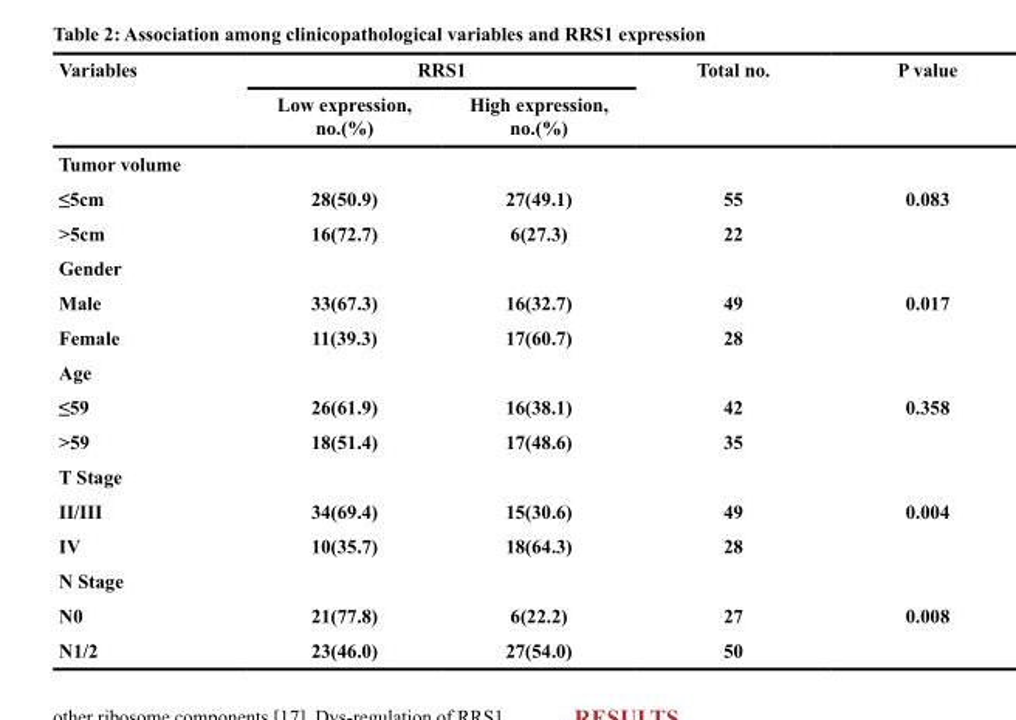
<table><thead><tr><td rowspan="2">Variables</td><td colspan="2">RRS1</td><td rowspan="2">Total no.</td><td rowspan="2">P value</td></tr><tr><td>Low expression, no.(%)</td><td>High expression, no.(%)</td></tr></thead><tbody><tr><td colspan="5">Tumor volume</td></tr><tr><td>≤5cm</td><td>28(50.9)</td><td>27(49.1)</td><td>55</td><td rowspan="2">0.083</td></tr><tr><td>&gt;5cm</td><td>16(72.7)</td><td>6(27.3)</td><td>22</td></tr><tr><td colspan="5">Gender</td></tr><tr><td>Male</td><td>33(67.3)</td><td>16(32.7)</td><td>49</td><td rowspan="2">0.017</td></tr><tr><td>Female</td><td>11(39.3)</td><td>17(60.7)</td><td>28</td></tr><tr><td colspan="5">Age</td></tr><tr><td>≤59</td><td>26(61.9)</td><td>16(38.1)</td><td>42</td><td rowspan="2">0.358</td></tr><tr><td>&gt;59</td><td>18(51.4)</td><td>17(48.6)</td><td>35</td></tr><tr><td colspan="5">T Stage</td></tr><tr><td>II/III</td><td>34(69.4)</td><td>15(30.6)</td><td>49</td><td rowspan="2">0.004</td></tr><tr><td>IV</td><td>10(35.7)</td><td>18(64.3)</td><td>28</td></tr><tr><td colspan="5">N Stage</td></tr><tr><td>N0</td><td>21(77.8)</td><td>6(22.2)</td><td>27</td><td rowspan="2">0.008</td></tr><tr><td>N1/2</td><td>23(46.0)</td><td>27(54.0)</td><td>50</td></tr></tbody></table>